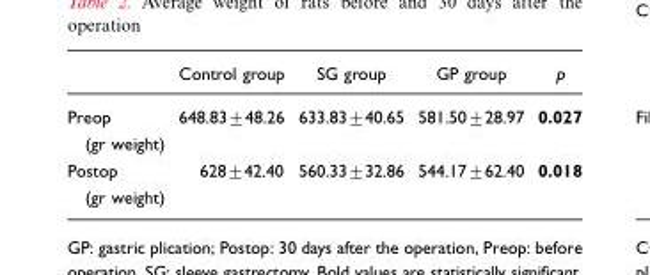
<table><thead><tr><td></td><td>Control group</td><td>SG group</td><td>GP group</td><td>p</td></tr></thead><tbody><tr><td>Preop (gr weight)</td><td>648.83±48.26</td><td>633.83±40.65</td><td>581.50±28.97</td><td>0.027</td></tr><tr><td>Postop (gr weight)</td><td>628±42.40</td><td>560.33±32.86</td><td>544.17±62.40</td><td>0.018</td></tr></tbody></table>